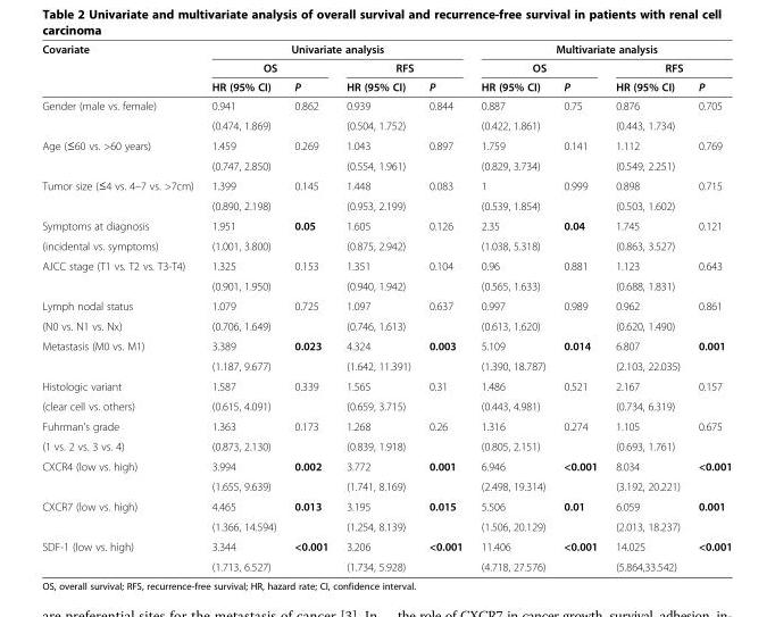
<table><thead><tr><td rowspan="3">Covariate</td><td colspan="4">Univariate analysis</td><td colspan="4">Multivariate analysis</td></tr><tr><td colspan="2">OS</td><td colspan="2">RFS</td><td colspan="2">OS</td><td colspan="2">RFS</td></tr><tr><td>HR (95% CI)</td><td>P</td><td>HR (95% CI)</td><td>P</td><td>HR (95% CI)</td><td>P</td><td>HR (95% CI)</td><td>P</td></tr></thead><tbody><tr><td rowspan="2">Gender (male vs. female)</td><td>0.941</td><td rowspan="2">0.862</td><td>0.939</td><td rowspan="2">0.844</td><td>0.887</td><td rowspan="2">0.75</td><td>0.876</td><td rowspan="2">0.705</td></tr><tr><td>(0.474, 1.869)</td><td>(0.504, 1.752)</td><td>(0.422, 1.861)</td><td>(0.443, 1.734)</td></tr><tr><td rowspan="2">Age (≤60 vs. &gt;60 years)</td><td>1.459</td><td rowspan="2">0.269</td><td>1.043</td><td rowspan="2">0.897</td><td>1.759</td><td rowspan="2">0.141</td><td>1.112</td><td rowspan="2">0.769</td></tr><tr><td>(0.747, 2.850)</td><td>(0.554, 1.961)</td><td>(0.829, 3.734)</td><td>(0.549, 2.251)</td></tr><tr><td rowspan="2">Tumor size (≤4 vs. 4–7 vs. &gt;7cm)</td><td>1.399</td><td rowspan="2">0.145</td><td>1.448</td><td rowspan="2">0.083</td><td>1</td><td rowspan="2">0.999</td><td>0.898</td><td rowspan="2">0.715</td></tr><tr><td>(0.890, 2.198)</td><td>(0.953, 2.199)</td><td>(0.539, 1.854)</td><td>(0.503, 1.602)</td></tr><tr><td>Symptoms at diagnosis</td><td>1.951</td><td rowspan="2">0.05</td><td>1.605</td><td rowspan="2">0.126</td><td>2.35</td><td rowspan="2">0.04</td><td>1.745</td><td rowspan="2">0.121</td></tr><tr><td>(incidental vs. symptoms)</td><td>(1.001, 3.800)</td><td>(0.875, 2.942)</td><td>(1.038, 5.318)</td><td>(0.863, 3.527)</td></tr><tr><td rowspan="2">AJCC stage (T1 vs. T2 vs. T3-T4)</td><td>1.325</td><td rowspan="2">0.153</td><td>1.351</td><td rowspan="2">0.104</td><td>0.96</td><td rowspan="2">0.881</td><td>1.123</td><td rowspan="2">0.643</td></tr><tr><td>(0.901, 1.950)</td><td>(0.940, 1.942)</td><td>(0.565, 1.633)</td><td>(0.688, 1.831)</td></tr><tr><td>Lymph nodal status</td><td>1.079</td><td rowspan="2">0.725</td><td>1.097</td><td rowspan="2">0.637</td><td>0.997</td><td rowspan="2">0.989</td><td>0.962</td><td rowspan="2">0.861</td></tr><tr><td>(N0 vs. N1 vs. Nx)</td><td>(0.706, 1.649)</td><td>(0.746, 1.613)</td><td>(0.613, 1.620)</td><td>(0.620, 1.490)</td></tr><tr><td rowspan="2">Metastasis (M0 vs. M1)</td><td>3.389</td><td rowspan="2">0.023</td><td>4.324</td><td rowspan="2">0.003</td><td>5.109</td><td rowspan="2">0.014</td><td>6.807</td><td rowspan="2">0.001</td></tr><tr><td>(1.187, 9.677)</td><td>(1.642, 11.391)</td><td>(1.390, 18.787)</td><td>(2.103, 22.035)</td></tr><tr><td>Histologic variant</td><td>1.587</td><td rowspan="2">0.339</td><td>1.565</td><td rowspan="2">0.31</td><td>1.486</td><td rowspan="2">0.521</td><td>2.167</td><td rowspan="2">0.157</td></tr><tr><td>(clear cell vs. others)</td><td>(0.615, 4.091)</td><td>(0.659, 3.715)</td><td>(0.443, 4.981)</td><td>(0.734, 6.319)</td></tr><tr><td>Fuhrman’s grade</td><td>1.363</td><td rowspan="2">0.173</td><td>1.268</td><td rowspan="2">0.26</td><td>1.316</td><td rowspan="2">0.274</td><td>1.105</td><td rowspan="2">0.675</td></tr><tr><td>(1 vs. 2 vs. 3 vs. 4)</td><td>(0.873, 2.130)</td><td>(0.839, 1.918)</td><td>(0.805, 2.151)</td><td>(0.693, 1.761)</td></tr><tr><td rowspan="2">CXCR4 (low vs. high)</td><td>3.994</td><td rowspan="2">0.002</td><td>3.772</td><td rowspan="2">0.001</td><td>6.946</td><td rowspan="2">&lt;0.001</td><td>8.034</td><td rowspan="2">&lt;0.001</td></tr><tr><td>(1.655, 9.639)</td><td>(1.741, 8.169)</td><td>(2.498, 19.314)</td><td>(3.192, 20.221)</td></tr><tr><td rowspan="2">CXCR7 (low vs. high)</td><td>4.465</td><td rowspan="2">0.013</td><td>3.195</td><td rowspan="2">0.015</td><td>5.506</td><td rowspan="2">0.01</td><td>6.059</td><td rowspan="2">0.001</td></tr><tr><td>(1.366, 14.594)</td><td>(1.254, 8.139)</td><td>(1.506, 20.129)</td><td>(2.013, 18.237)</td></tr><tr><td rowspan="2">SDF-1 (low vs. high)</td><td>3.344</td><td>&lt;0.001</td><td>3.206</td><td>&lt;0.001</td><td>11.406</td><td>&lt;0.001</td><td>14.025</td><td>&lt;0.001</td></tr><tr><td>(1.713, 6.527)</td><td></td><td>(1.734, 5.928)</td><td></td><td>(4.718, 27.576)</td><td></td><td>(5.864,33.542)</td><td></td></tr></tbody></table>